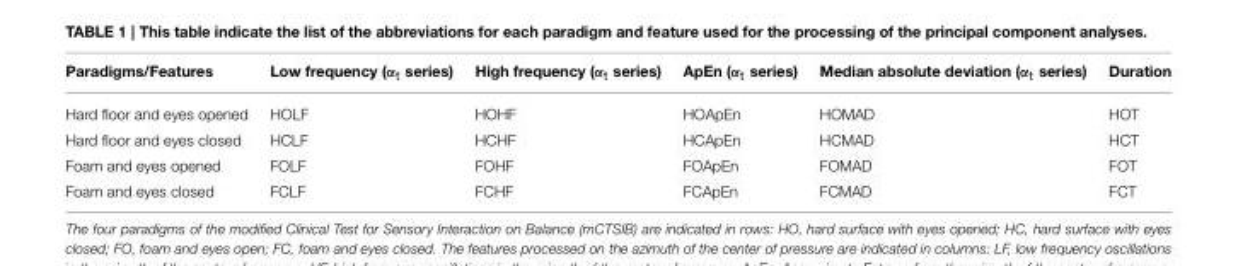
<table><thead><tr><td>Paradigms/Features</td><td>Low frequency (α<sub>t</sub> series)</td><td>High frequency (α<sub>t</sub> series)</td><td>ApEn (α<sub>t</sub> series)</td><td>Median absolute deviation (α<sub>t</sub> series)</td><td>Duration</td></tr></thead><tbody><tr><td>Hard floor and eyes opened</td><td>HOLF</td><td>HOHF</td><td>HOApEn</td><td>HOMAD</td><td>HOT</td></tr><tr><td>Hard floor and eyes closed</td><td>HCLF</td><td>HCHF</td><td>HCApEn</td><td>HCMAD</td><td>HCT</td></tr><tr><td>Foam and eyes opened</td><td>FOLF</td><td>FOHF</td><td>FOApEn</td><td>FOMAD</td><td>FOT</td></tr><tr><td>Foam and eyes closed</td><td>FCLF</td><td>FCHF</td><td>FCApEn</td><td>FCMAD</td><td>FCT</td></tr></tbody></table>